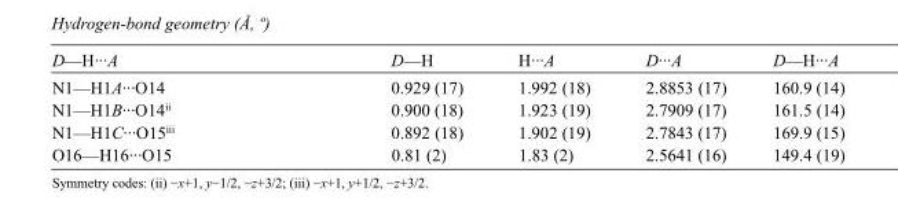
<table><tbody><tr><td>D—H···A</td><td>D—H</td><td>H···A</td><td>D···A</td><td>D—H···A</td></tr><tr><td>N1—H1A···O14</td><td>0.929 (17)</td><td>1.992 (18)</td><td>2.8853 (17)</td><td>160.9 (14)</td></tr><tr><td>N1—H1B···O14<sup>ii</sup></td><td>0.900 (18)</td><td>1.923 (19)</td><td>2.7909 (17)</td><td>161.5 (14)</td></tr><tr><td>N1—H1C···O15<sup>iii</sup></td><td>0.892 (18)</td><td>1.902 (19)</td><td>2.7843 (17)</td><td>169.9 (15)</td></tr><tr><td>O16—H16···O15</td><td>0.81 (2)</td><td>1.83 (2)</td><td>2.5641 (16)</td><td>149.4 (19)</td></tr></tbody></table>